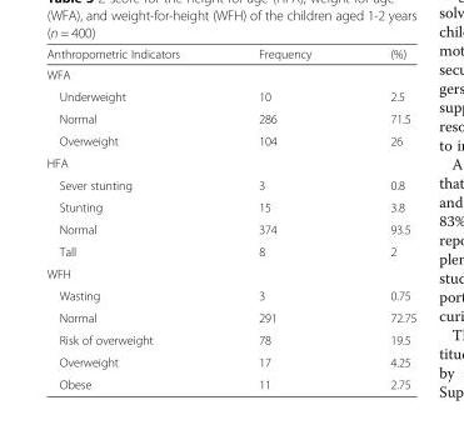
<table><thead><tr><td>Anthropometric Indicators</td><td>Frequency</td><td>(%)</td></tr></thead><tbody><tr><td colspan="3">WFA</td></tr><tr><td>Underweight</td><td>10</td><td>2.5</td></tr><tr><td>Normal</td><td>286</td><td>71.5</td></tr><tr><td>Overweight</td><td>104</td><td>26</td></tr><tr><td colspan="3">HFA</td></tr><tr><td>Sever stunting</td><td>3</td><td>0.8</td></tr><tr><td>Stunting</td><td>15</td><td>3.8</td></tr><tr><td>Normal</td><td>374</td><td>93.5</td></tr><tr><td>Tall</td><td>8</td><td>2</td></tr><tr><td colspan="3">WFH</td></tr><tr><td>Wasting</td><td>3</td><td>0.75</td></tr><tr><td>Normal</td><td>291</td><td>72.75</td></tr><tr><td>Risk of overweight</td><td>78</td><td>19.5</td></tr><tr><td>Overweight</td><td>17</td><td>4.25</td></tr><tr><td>Obese</td><td>11</td><td>2.75</td></tr></tbody></table>